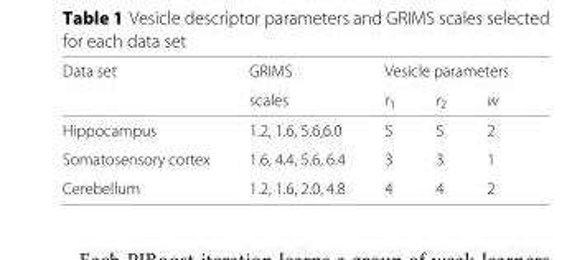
<table><thead><tr><td rowspan="2">Data set</td><td rowspan="2">GRIMS scales</td><td colspan="3">Vesicle parameters</td></tr><tr><td>r<sub>1</sub></td><td>r<sub>2</sub></td><td>w</td></tr></thead><tbody><tr><td>Hippocampus</td><td>1.2, 1.6, 5.6,6.0</td><td>5</td><td>5</td><td>2</td></tr><tr><td>Somatosensory cortex</td><td>1.6, 4.4, 5.6, 6.4</td><td>3</td><td>3</td><td>1</td></tr><tr><td>Cerebellum</td><td>1.2, 1.6, 2.0, 4.8</td><td>4</td><td>4</td><td>2</td></tr></tbody></table>